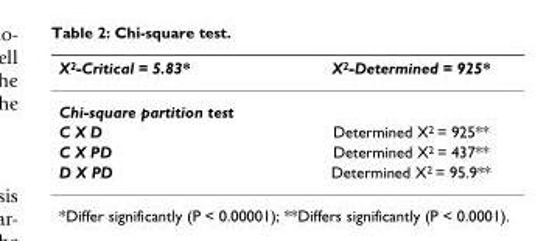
<table><thead><tr><td>X<sup>2</sup>-Critical = 5.83*</td><td>X<sup>2</sup>-Determined = 925*</td></tr></thead><tbody><tr><td colspan="2">Chi-square partition test</td></tr><tr><td>C X D</td><td>Determined X<sup>2</sup> = 925**</td></tr><tr><td>C X PD</td><td>Determined X<sup>2</sup> = 437**</td></tr><tr><td>D X PD</td><td>Determined X<sup>2</sup> = 95.9**</td></tr></tbody></table>